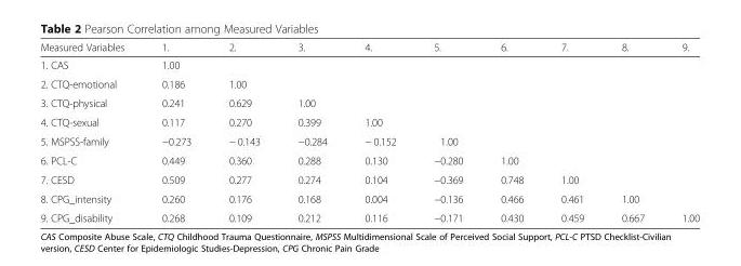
<table><thead><tr><td>Measured Variables</td><td>1.</td><td>2.</td><td>3.</td><td>4.</td><td>5.</td><td>6.</td><td>7.</td><td>8.</td><td>9.</td></tr></thead><tbody><tr><td>1. CAS</td><td>1.00</td><td></td><td></td><td></td><td></td><td></td><td></td><td></td><td></td></tr><tr><td>2. CTQ-emotional</td><td>0.186</td><td>1.00</td><td></td><td></td><td></td><td></td><td></td><td></td><td></td></tr><tr><td>3. CTQ-physical</td><td>0.241</td><td>0.629</td><td>1.00</td><td></td><td></td><td></td><td></td><td></td><td></td></tr><tr><td>4. CTQ-sexual</td><td>0.117</td><td>0.270</td><td>0.399</td><td>1.00</td><td></td><td></td><td></td><td></td><td></td></tr><tr><td>5. MSPSS-family</td><td>−0.273</td><td>− 0.143</td><td>−0.284</td><td>− 0.152</td><td>1.00</td><td></td><td></td><td></td><td></td></tr><tr><td>6. PCL-C</td><td>0.449</td><td>0.360</td><td>0.288</td><td>0.130</td><td>−0.280</td><td>1.00</td><td></td><td></td><td></td></tr><tr><td>7. CESD</td><td>0.509</td><td>0.277</td><td>0.274</td><td>0.104</td><td>−0.369</td><td>0.748</td><td>1.00</td><td></td><td></td></tr><tr><td>8. CPG_intensity</td><td>0.260</td><td>0.176</td><td>0.168</td><td>0.004</td><td>−0.136</td><td>0.466</td><td>0.461</td><td>1.00</td><td></td></tr><tr><td>9. CPG_disability</td><td>0.268</td><td>0.109</td><td>0.212</td><td>0.116</td><td>−0.171</td><td>0.430</td><td>0.459</td><td>0.667</td><td>1.00</td></tr></tbody></table>